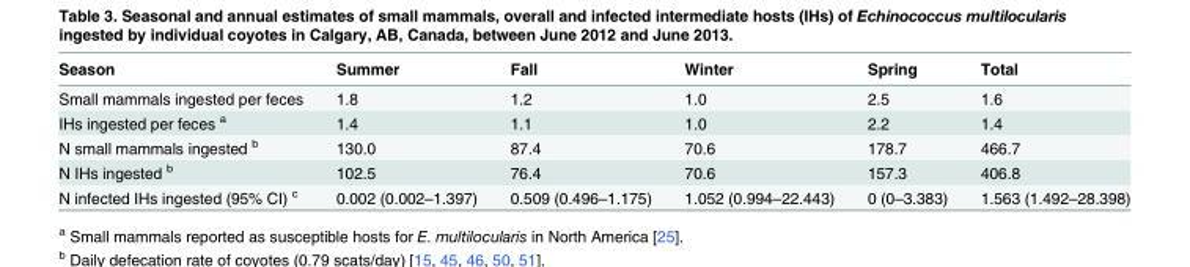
<table><thead><tr><td>Season</td><td>Summer</td><td>Fall</td><td>Winter</td><td>Spring</td><td>Total</td></tr></thead><tbody><tr><td>Small mammals ingested per feces</td><td>1.8</td><td>1.2</td><td>1.0</td><td>2.5</td><td>1.6</td></tr><tr><td>IHs ingested per feces <sup>a</sup></td><td>1.4</td><td>1.1</td><td>1.0</td><td>2.2</td><td>1.4</td></tr><tr><td>N small mammals ingested <sup>b</sup></td><td>130.0</td><td>87.4</td><td>70.6</td><td>178.7</td><td>466.7</td></tr><tr><td>N IHs ingested <sup>b</sup></td><td>102.5</td><td>76.4</td><td>70.6</td><td>157.3</td><td>406.8</td></tr><tr><td>N infected IHs ingested (95% CI) <sup>c</sup></td><td>0.002 (0.002–1.397)</td><td>0.509 (0.496–1.175)</td><td>1.052 (0.994–22.443)</td><td>0 (0–3.383)</td><td>1.563 (1.492–28.398)</td></tr></tbody></table>